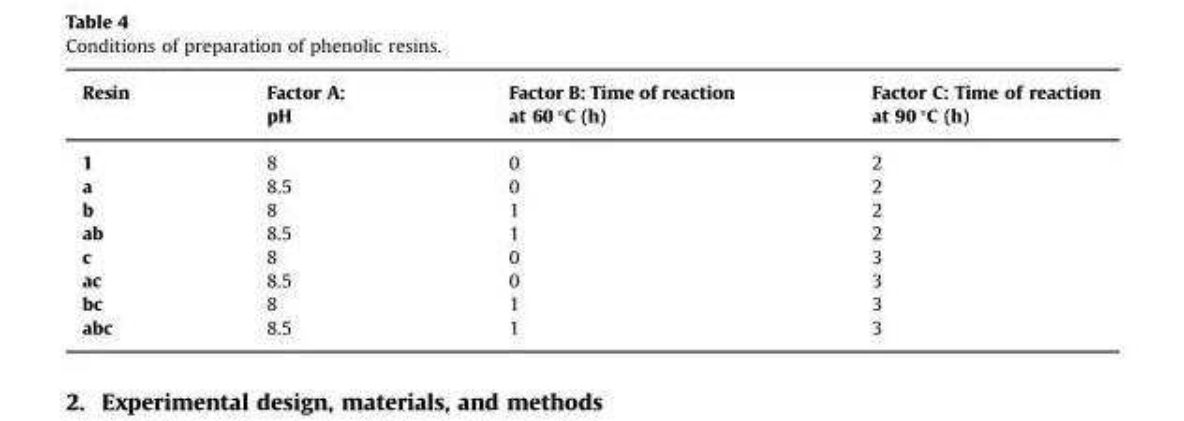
<table><thead><tr><td>Resin</td><td>Factor A: pH</td><td>Factor B: Time of reaction at 60 °C (h)</td><td>Factor C: Time of reaction at 90 °C (h)</td></tr></thead><tbody><tr><td>1</td><td>8</td><td>0</td><td>2</td></tr><tr><td>a</td><td>8.5</td><td>0</td><td>2</td></tr><tr><td>b</td><td>8</td><td>1</td><td>2</td></tr><tr><td>ab</td><td>8.5</td><td>1</td><td>2</td></tr><tr><td>c</td><td>8</td><td>0</td><td>3</td></tr><tr><td>ac</td><td>8.5</td><td>0</td><td>3</td></tr><tr><td>bc</td><td>8</td><td>1</td><td>3</td></tr><tr><td>abc</td><td>8.5</td><td>1</td><td>3</td></tr></tbody></table>